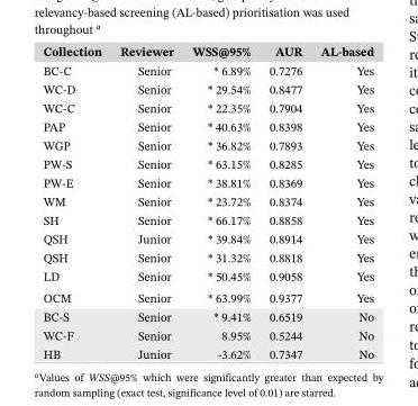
<table><thead><tr><td>Collection</td><td>Reviewer</td><td>WSS@95%</td><td>AUR</td><td>AL-based</td></tr></thead><tbody><tr><td>BC-C</td><td>Senior</td><td>* 6.89%</td><td>0.7276</td><td>Yes</td></tr><tr><td>WC-D</td><td>Senior</td><td>* 29.54%</td><td>0.8477</td><td>Yes</td></tr><tr><td>WC-C</td><td>Senior</td><td>* 22.35%</td><td>0.7904</td><td>Yes</td></tr><tr><td>PAP</td><td>Senior</td><td>* 40.63%</td><td>0.8398</td><td>Yes</td></tr><tr><td>WGP</td><td>Senior</td><td>* 36.82%</td><td>0.7893</td><td>Yes</td></tr><tr><td>PW-S</td><td>Senior</td><td>* 63.15%</td><td>0.8285</td><td>Yes</td></tr><tr><td>PW-E</td><td>Senior</td><td>* 38.81%</td><td>0.8369</td><td>Yes</td></tr><tr><td>WM</td><td>Senior</td><td>* 23.72%</td><td>0.8374</td><td>Yes</td></tr><tr><td>SH</td><td>Senior</td><td>* 66.17%</td><td>0.8858</td><td>Yes</td></tr><tr><td>QSH</td><td>Junior</td><td>* 39.84%</td><td>0.8914</td><td>Yes</td></tr><tr><td>QSH</td><td>Senior</td><td>* 31.32%</td><td>0.8818</td><td>Yes</td></tr><tr><td>LD</td><td>Senior</td><td>* 50.45%</td><td>0.9058</td><td>Yes</td></tr><tr><td>OCM</td><td>Senior</td><td>* 63.99%</td><td>0.9377</td><td>Yes</td></tr><tr><td>BC-S</td><td>Senior</td><td>* 9.41%</td><td>0.6519</td><td>No</td></tr><tr><td>WC-F</td><td>Senior</td><td>8.95%</td><td>0.5244</td><td>No</td></tr><tr><td>HB</td><td>Junior</td><td>-3.62%</td><td>0.7347</td><td>No</td></tr></tbody></table>